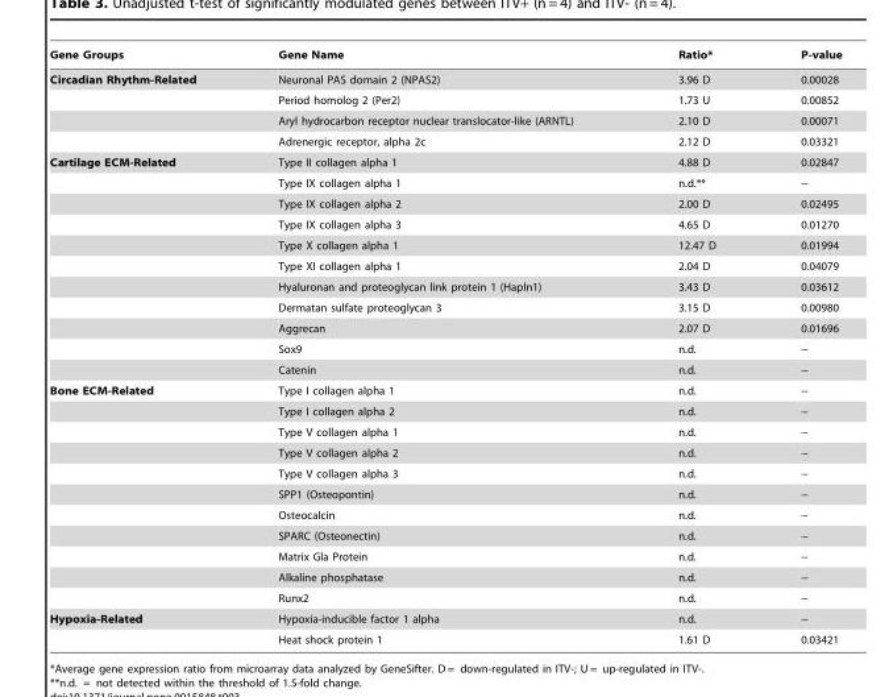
<table><thead><tr><td>Gene Groups</td><td>Gene Name</td><td>Ratio*</td><td>P-value</td></tr></thead><tbody><tr><td rowspan="4">Circadian Rhythm-Related</td><td>Neuronal PAS domain 2 (NPAS2)</td><td>3.96 D</td><td>0.00028</td></tr><tr><td>Period homolog 2 (Per2)</td><td>1.73 U</td><td>0.00852</td></tr><tr><td>Aryl hydrocarbon receptor nuclear translocator-like (ARNTL)</td><td>2.10 D</td><td>0.00071</td></tr><tr><td>Adrenergic receptor, alpha 2c</td><td>2.12 D</td><td>0.03321</td></tr><tr><td rowspan="11">Cartilage ECM-Related</td><td>Type II collagen alpha 1</td><td>4.88 D</td><td>0.02847</td></tr><tr><td>Type IX collagen alpha 1</td><td>n.d.**</td><td>--</td></tr><tr><td>Type IX collagen alpha 2</td><td>2.00 D</td><td>0.02495</td></tr><tr><td>Type IX collagen alpha 3</td><td>4.65 D</td><td>0.01270</td></tr><tr><td>Type X collagen alpha 1</td><td>12.47 D</td><td>0.01994</td></tr><tr><td>Type XI collagen alpha 1</td><td>2.04 D</td><td>0.04079</td></tr><tr><td>Hyaluronan and proteoglycan link protein 1 (Hapln1)</td><td>3.43 D</td><td>0.03612</td></tr><tr><td>Dermatan sulfate proteoglycan 3</td><td>3.15 D</td><td>0.00980</td></tr><tr><td>Aggrecan</td><td>2.07 D</td><td>0.01696</td></tr><tr><td>Sox9</td><td>n.d.</td><td>--</td></tr><tr><td>Catenin</td><td>n.d.</td><td>--</td></tr><tr><td rowspan="11">Bone ECM-Related</td><td>Type I collagen alpha 1</td><td>n.d.</td><td>--</td></tr><tr><td>Type I collagen alpha 2</td><td>n.d.</td><td>--</td></tr><tr><td>Type V collagen alpha 1</td><td>n.d.</td><td>--</td></tr><tr><td>Type V collagen alpha 2</td><td>n.d.</td><td>--</td></tr><tr><td>Type V collagen alpha 3</td><td>n.d.</td><td>--</td></tr><tr><td>SPP1 (Osteopontin)</td><td>n.d.</td><td>--</td></tr><tr><td>Osteocalcin</td><td>n.d.</td><td>--</td></tr><tr><td>SPARC (Osteonectin)</td><td>n.d.</td><td>--</td></tr><tr><td>Matrix Gla Protein</td><td>n.d.</td><td>--</td></tr><tr><td>Alkaline phosphatase</td><td>n.d.</td><td>--</td></tr><tr><td>Runx2</td><td>n.d.</td><td>--</td></tr><tr><td rowspan="2">Hypoxia-Related</td><td>Hypoxia-inducible factor 1 alpha</td><td>n.d.</td><td>--</td></tr><tr><td>Heat shock protein 1</td><td>1.61 D</td><td>0.03421</td></tr></tbody></table>